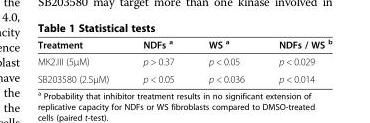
<table><thead><tr><td>Treatment</td><td>NDFs <sup>a</sup></td><td>WS <sup>a</sup></td><td>NDFs / WS <sup>b</sup></td></tr></thead><tbody><tr><td>MK2.III (5μM)</td><td>p &gt; 0.37</td><td>p &lt; 0.05</td><td>p &lt; 0.029</td></tr><tr><td>SB203580 (2.5μM)</td><td>p &lt; 0.05</td><td>p &lt; 0.036</td><td>p &lt; 0.014</td></tr></tbody></table>